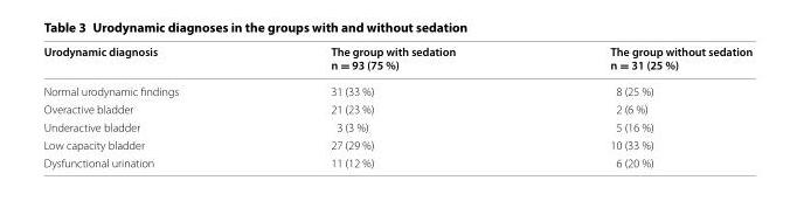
<table><thead><tr><td>Urodynamic diagnosis</td><td>The group with sedation n = 93 (75 %)</td><td>The group without sedation n = 31 (25 %)</td></tr></thead><tbody><tr><td>Normal urodynamic findings</td><td>31 (33 %)</td><td>8 (25 %)</td></tr><tr><td>Overactive bladder</td><td>21 (23 %)</td><td>2 (6 %)</td></tr><tr><td>Underactive bladder</td><td>3 (3 %)</td><td>5 (16 %)</td></tr><tr><td>Low capacity bladder</td><td>27 (29 %)</td><td>10 (33 %)</td></tr><tr><td>Dysfunctional urination</td><td>11 (12 %)</td><td>6 (20 %)</td></tr></tbody></table>